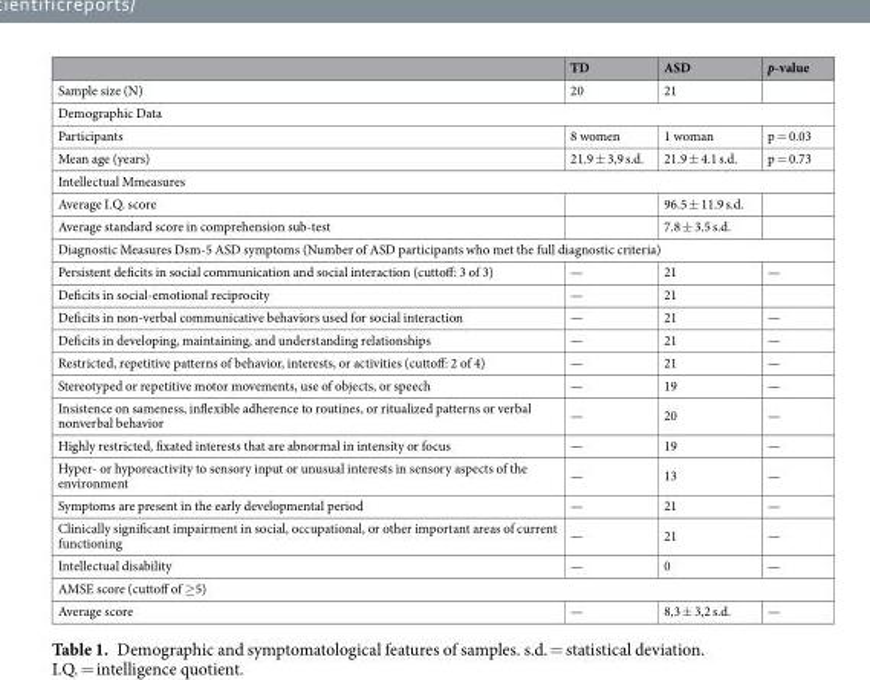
<table><thead><tr><td></td><td>TD</td><td>ASD</td><td>p-value</td></tr></thead><tbody><tr><td>Sample size (N)</td><td>20</td><td>21</td><td></td></tr><tr><td colspan="4">Demographic Data</td></tr><tr><td>Participants</td><td>8 women</td><td>1 woman</td><td>p = 0.03</td></tr><tr><td>Mean age (years)</td><td>21.9 ± 3,9 s.d.</td><td>21.9 ± 4.1 s.d.</td><td>p = 0.73</td></tr><tr><td colspan="4">Intellectual Mmeasures</td></tr><tr><td>Average I.Q. score</td><td></td><td>96.5 ± 11.9 s.d.</td><td></td></tr><tr><td>Average standard score in comprehension sub-test</td><td></td><td>7.8 ± 3.5 s.d.</td><td></td></tr><tr><td colspan="4">Diagnostic Measures Dsm-5 ASD symptoms (Number of ASD participants who met the full diagnostic criteria)</td></tr><tr><td>Persistent deficits in social communication and social interaction (cuttoff: 3 of 3)</td><td>—</td><td>21</td><td>—</td></tr><tr><td>Deficits in social-emotional reciprocity</td><td>—</td><td>21</td><td></td></tr><tr><td>Deficits in non-verbal communicative behaviors used for social interaction</td><td>—</td><td>21</td><td>—</td></tr><tr><td>Deficits in developing, maintaining, and understanding relationships</td><td>—</td><td>21</td><td>—</td></tr><tr><td>Restricted, repetitive patterns of behavior, interests, or activities (cuttoff: 2 of 4)</td><td>—</td><td>21</td><td>—</td></tr><tr><td>Stereotyped or repetitive motor movements, use of objects, or speech</td><td>—</td><td>19</td><td>—</td></tr><tr><td>Insistence on sameness, inflexible adherence to routines, or ritualized patterns or verbal nonverbal behavior</td><td>—</td><td>20</td><td>—</td></tr><tr><td>Highly restricted, fixated interests that are abnormal in intensity or focus</td><td>—</td><td>19</td><td>—</td></tr><tr><td>Hyper- or hyporeactivity to sensory input or unusual interests in sensory aspects of the environment</td><td>—</td><td>13</td><td>—</td></tr><tr><td>Symptoms are present in the early developmental period</td><td>—</td><td>21</td><td>—</td></tr><tr><td>Clinically significant impairment in social, occupational, or other important areas of current functioning</td><td>—</td><td>21</td><td>—</td></tr><tr><td>Intellectual disability</td><td>—</td><td>0</td><td>—</td></tr><tr><td colspan="4">AMSE score (cuttoff of ≥5)</td></tr><tr><td>Average score</td><td>—</td><td>8,3 ± 3,2 s.d.</td><td>—</td></tr></tbody></table>